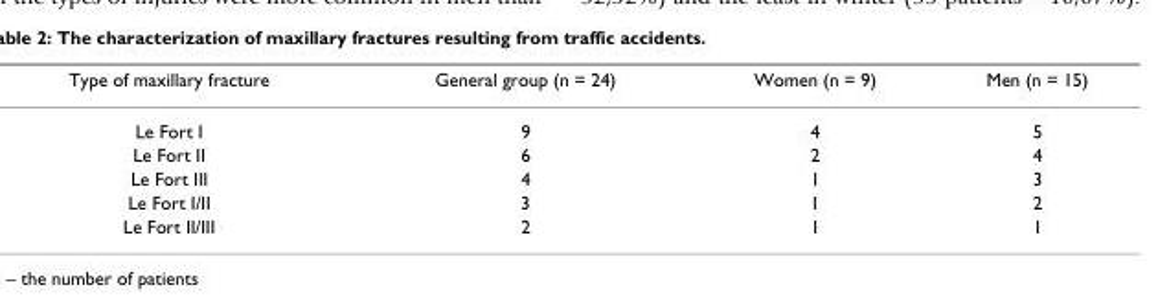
<table><thead><tr><td>Type of maxillary fracture</td><td>General group (n = 24)</td><td>Women (n = 9)</td><td>Men (n = 15)</td></tr></thead><tbody><tr><td>Le Fort I</td><td>9</td><td>4</td><td>5</td></tr><tr><td>Le Fort II</td><td>6</td><td>2</td><td>4</td></tr><tr><td>Le Fort III</td><td>4</td><td>1</td><td>3</td></tr><tr><td>Le Fort I/II</td><td>3</td><td>1</td><td>2</td></tr><tr><td>Le Fort II/III</td><td>2</td><td>1</td><td>1</td></tr></tbody></table>